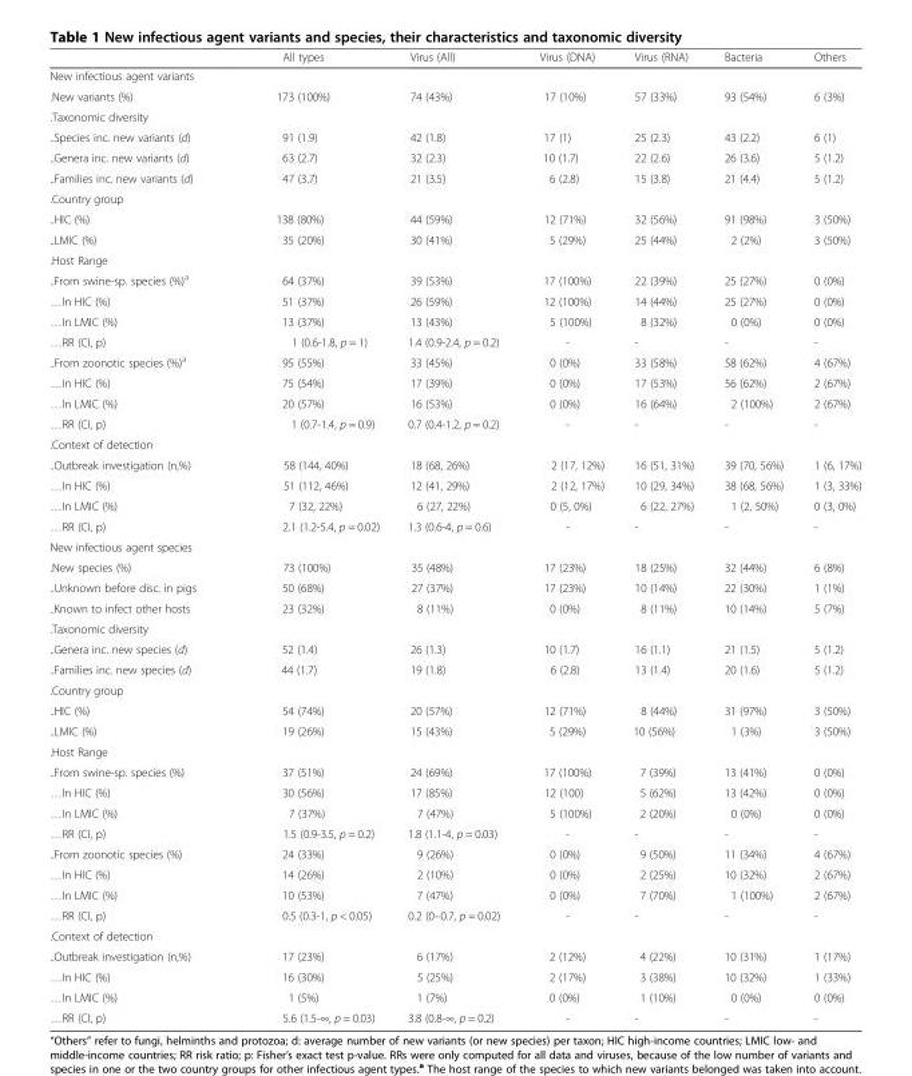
<table><thead><tr><td></td><td>All types</td><td>Virus (All)</td><td>Virus (DNA)</td><td>Virus (RNA)</td><td>Bacteria</td><td>Others</td></tr></thead><tbody><tr><td colspan="7">New infectious agent variants</td></tr><tr><td>.New variants (%)</td><td>173 (100%)</td><td>74 (43%)</td><td>17 (10%)</td><td>57 (33%)</td><td>93 (54%)</td><td>6 (3%)</td></tr><tr><td colspan="7">.Taxonomic diversity</td></tr><tr><td>..Species inc. new variants (d)</td><td>91 (1.9)</td><td>42 (1.8)</td><td>17 (1)</td><td>25 (2.3)</td><td>43 (2.2)</td><td>6 (1)</td></tr><tr><td>..Genera inc. new variants (d)</td><td>63 (2.7)</td><td>32 (2.3)</td><td>10 (1.7)</td><td>22 (2.6)</td><td>26 (3.6)</td><td>5 (1.2)</td></tr><tr><td>..Families inc. new variants (d)</td><td>47 (3.7)</td><td>21 (3.5)</td><td>6 (2.8)</td><td>15 (3.8)</td><td>21 (4.4)</td><td>5 (1.2)</td></tr><tr><td colspan="7">.Country group</td></tr><tr><td>..HIC (%)</td><td>138 (80%)</td><td>44 (59%)</td><td>12 (71%)</td><td>32 (56%)</td><td>91 (98%)</td><td>3 (50%)</td></tr><tr><td>..LMIC (%)</td><td>35 (20%)</td><td>30 (41%)</td><td>5 (29%)</td><td>25 (44%)</td><td>2 (2%)</td><td>3 (50%)</td></tr><tr><td colspan="7">.Host Range</td></tr><tr><td>..From swine-sp. species (%)<sup>a</sup></td><td>64 (37%)</td><td>39 (53%)</td><td>17 (100%)</td><td>22 (39%)</td><td>25 (27%)</td><td>0 (0%)</td></tr><tr><td>…In HIC (%)</td><td>51 (37%)</td><td>26 (59%)</td><td>12 (100%)</td><td>14 (44%)</td><td>25 (27%)</td><td>0 (0%)</td></tr><tr><td>…In LMIC (%)</td><td>13 (37%)</td><td>13 (43%)</td><td>5 (100%)</td><td>8 (32%)</td><td>0 (0%)</td><td>0 (0%)</td></tr><tr><td>…RR (CI, p)</td><td>1 (0.6-1.8, p = 1)</td><td>1.4 (0.9-2.4, p = 0.2)</td><td>-</td><td>-</td><td>-</td><td>-</td></tr><tr><td>..From zoonotic species (%)<sup>a</sup></td><td>95 (55%)</td><td>33 (45%)</td><td>0 (0%)</td><td>33 (58%)</td><td>58 (62%)</td><td>4 (67%)</td></tr><tr><td>…In HIC (%)</td><td>75 (54%)</td><td>17 (39%)</td><td>0 (0%)</td><td>17 (53%)</td><td>56 (62%)</td><td>2 (67%)</td></tr><tr><td>…In LMIC (%)</td><td>20 (57%)</td><td>16 (53%)</td><td>0 (0%)</td><td>16 (64%)</td><td>2 (100%)</td><td>2 (67%)</td></tr><tr><td>…RR (CI, p)</td><td>1 (0.7-1.4, p = 0.9)</td><td>0.7 (0.4-1.2, p = 0.2)</td><td>-</td><td>-</td><td>-</td><td>-</td></tr><tr><td colspan="7">.Context of detection</td></tr><tr><td>..Outbreak investigation (n,%)</td><td>58 (144, 40%)</td><td>18 (68, 26%)</td><td>2 (17, 12%)</td><td>16 (51, 31%)</td><td>39 (70, 56%)</td><td>1 (6, 17%)</td></tr><tr><td>…In HIC (%)</td><td>51 (112, 46%)</td><td>12 (41, 29%)</td><td>2 (12, 17%)</td><td>10 (29, 34%)</td><td>38 (68, 56%)</td><td>1 (3, 33%)</td></tr><tr><td>…In LMIC (%)</td><td>7 (32, 22%)</td><td>6 (27, 22%)</td><td>0 (5, 0%)</td><td>6 (22, 27%)</td><td>1 (2, 50%)</td><td>0 (3, 0%)</td></tr><tr><td>…RR (CI, p)</td><td>2.1 (1.2-5.4, p = 0.02)</td><td>1.3 (0.6-4, p = 0.6)</td><td>-</td><td>-</td><td>-</td><td>-</td></tr><tr><td colspan="7">New infectious agent species</td></tr><tr><td>.New species (%)</td><td>73 (100%)</td><td>35 (48%)</td><td>17 (23%)</td><td>18 (25%)</td><td>32 (44%)</td><td>6 (8%)</td></tr><tr><td>..Unknown before disc. in pigs</td><td>50 (68%)</td><td>27 (37%)</td><td>17 (23%)</td><td>10 (14%)</td><td>22 (30%)</td><td>1 (1%)</td></tr><tr><td>..Known to infect other hosts</td><td>23 (32%)</td><td>8 (11%)</td><td>0 (0%)</td><td>8 (11%)</td><td>10 (14%)</td><td>5 (7%)</td></tr><tr><td colspan="7">.Taxonomic diversity</td></tr><tr><td>..Genera inc. new species (d)</td><td>52 (1.4)</td><td>26 (1.3)</td><td>10 (1.7)</td><td>16 (1.1)</td><td>21 (1.5)</td><td>5 (1.2)</td></tr><tr><td>..Families inc. new species (d)</td><td>44 (1.7)</td><td>19 (1.8)</td><td>6 (2.8)</td><td>13 (1.4)</td><td>20 (1.6)</td><td>5 (1.2)</td></tr><tr><td colspan="7">.Country group</td></tr><tr><td>..HIC (%)</td><td>54 (74%)</td><td>20 (57%)</td><td>12 (71%)</td><td>8 (44%)</td><td>31 (97%)</td><td>3 (50%)</td></tr><tr><td>..LMIC (%)</td><td>19 (26%)</td><td>15 (43%)</td><td>5 (29%)</td><td>10 (56%)</td><td>1 (3%)</td><td>3 (50%)</td></tr><tr><td colspan="7">.Host Range</td></tr><tr><td>..From swine-sp. species (%)</td><td>37 (51%)</td><td>24 (69%)</td><td>17 (100%)</td><td>7 (39%)</td><td>13 (41%)</td><td>0 (0%)</td></tr><tr><td>…In HIC (%)</td><td>30 (56%)</td><td>17 (85%)</td><td>12 (100)</td><td>5 (62%)</td><td>13 (42%)</td><td>0 (0%)</td></tr><tr><td>…In LMIC (%)</td><td>7 (37%)</td><td>7 (47%)</td><td>5 (100%)</td><td>2 (20%)</td><td>0 (0%)</td><td>0 (0%)</td></tr><tr><td>…RR (CI, p)</td><td>1.5 (0.9-3.5, p = 0.2)</td><td>1.8 (1.1-4, p = 0.03)</td><td>-</td><td>-</td><td>-</td><td>-</td></tr><tr><td>..From zoonotic species (%)</td><td>24 (33%)</td><td>9 (26%)</td><td>0 (0%)</td><td>9 (50%)</td><td>11 (34%)</td><td>4 (67%)</td></tr><tr><td>…In HIC (%)</td><td>14 (26%)</td><td>2 (10%)</td><td>0 (0%)</td><td>2 (25%)</td><td>10 (32%)</td><td>2 (67%)</td></tr><tr><td>…In LMIC (%)</td><td>10 (53%)</td><td>7 (47%)</td><td>0 (0%)</td><td>7 (70%)</td><td>1 (100%)</td><td>2 (67%)</td></tr><tr><td>…RR (CI, p)</td><td>0.5 (0.3-1, p &lt; 0.05)</td><td>0.2 (0–0.7, p = 0.02)</td><td>-</td><td>-</td><td>-</td><td>-</td></tr><tr><td colspan="7">.Context of detection</td></tr><tr><td>..Outbreak investigation (n,%)</td><td>17 (23%)</td><td>6 (17%)</td><td>2 (12%)</td><td>4 (22%)</td><td>10 (31%)</td><td>1 (17%)</td></tr><tr><td>…In HIC (%)</td><td>16 (30%)</td><td>5 (25%)</td><td>2 (17%)</td><td>3 (38%)</td><td>10 (32%)</td><td>1 (33%)</td></tr><tr><td>…In LMIC (%)</td><td>1 (5%)</td><td>1 (7%)</td><td>0 (0%)</td><td>1 (10%)</td><td>0 (0%)</td><td>0 (0%)</td></tr><tr><td>…RR (CI, p)</td><td>5.6 (1.5-∞, p = 0.03)</td><td>3.8 (0.8-∞, p = 0.2)</td><td>-</td><td>-</td><td>-</td><td>-</td></tr></tbody></table>